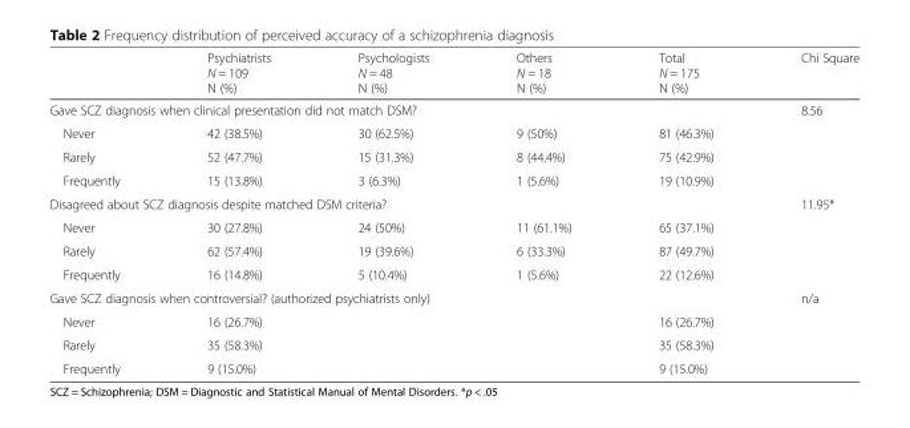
<table><thead><tr><td></td><td>Psychiatrists N = 109 N (%)</td><td>Psychologists N = 48 N (%)</td><td>Others N = 18 N (%)</td><td>Total N = 175 N (%)</td><td>Chi Square</td></tr></thead><tbody><tr><td colspan="5">Gave SCZ diagnosis when clinical presentation did not match DSM?</td><td>8.56</td></tr><tr><td>Never</td><td>42 (38.5%)</td><td>30 (62.5%)</td><td>9 (50%)</td><td>81 (46.3%)</td><td></td></tr><tr><td>Rarely</td><td>52 (47.7%)</td><td>15 (31.3%)</td><td>8 (44.4%)</td><td>75 (42.9%)</td><td></td></tr><tr><td>Frequently</td><td>15 (13.8%)</td><td>3 (6.3%)</td><td>1 (5.6%)</td><td>19 (10.9%)</td><td></td></tr><tr><td colspan="5">Disagreed about SCZ diagnosis despite matched DSM criteria?</td><td>11.95*</td></tr><tr><td>Never</td><td>30 (27.8%)</td><td>24 (50%)</td><td>11 (61.1%)</td><td>65 (37.1%)</td><td></td></tr><tr><td>Rarely</td><td>62 (57.4%)</td><td>19 (39.6%)</td><td>6 (33.3%)</td><td>87 (49.7%)</td><td></td></tr><tr><td>Frequently</td><td>16 (14.8%)</td><td>5 (10.4%)</td><td>1 (5.6%)</td><td>22 (12.6%)</td><td></td></tr><tr><td colspan="5">Gave SCZ diagnosis when controversial? (authorized psychiatrists only)</td><td>n/a</td></tr><tr><td>Never</td><td>16 (26.7%)</td><td></td><td></td><td>16 (26.7%)</td><td></td></tr><tr><td>Rarely</td><td>35 (58.3%)</td><td></td><td></td><td>35 (58.3%)</td><td></td></tr><tr><td>Frequently</td><td>9 (15.0%)</td><td></td><td></td><td>9 (15.0%)</td><td></td></tr></tbody></table>